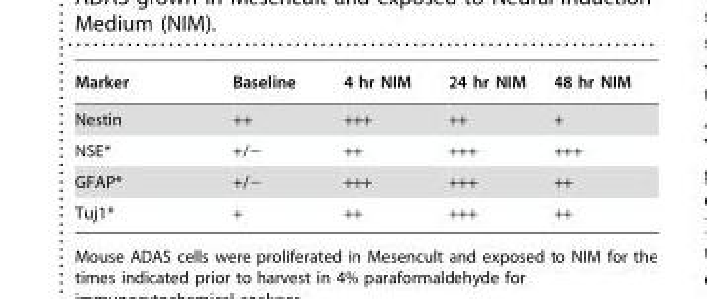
<table><thead><tr><td>Marker</td><td>Baseline</td><td>4 hr NIM</td><td>24 hr NIM</td><td>48 hr NIM</td></tr></thead><tbody><tr><td>Nestin</td><td>++</td><td>+++</td><td>++</td><td>+</td></tr><tr><td>NSE*</td><td>+/−</td><td>++</td><td>+++</td><td>+++</td></tr><tr><td>GFAP*</td><td>+/−</td><td>+++</td><td>+++</td><td>++</td></tr><tr><td>Tuj1*</td><td>+</td><td>++</td><td>+++</td><td>++</td></tr></tbody></table>